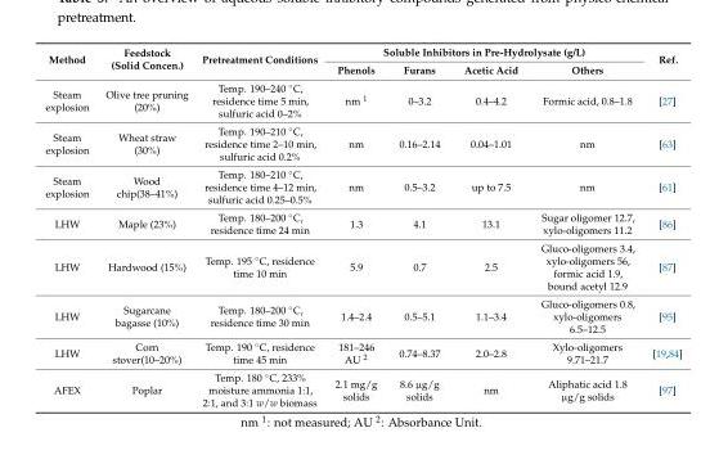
<table><thead><tr><td rowspan="2">Method</td><td rowspan="2">Feedstock (Solid Concen.)</td><td rowspan="2">Pretreatment Conditions</td><td colspan="4">Soluble Inhibitors in Pre-Hydrolysate (g/L)</td><td rowspan="2">Ref.</td></tr><tr><td>Phenols</td><td>Furans</td><td>Acetic Acid</td><td>Others</td></tr></thead><tbody><tr><td>Steam explosion</td><td>Olive tree pruning (20%)</td><td>Temp. 190–240 ◦C, residence time 5 min, sulfuric acid 0–2%</td><td>nm <sup>1</sup></td><td>0–3.2</td><td>0.4–4.2</td><td>Formic acid, 0.8–1.8</td><td>[27]</td></tr><tr><td>Steam explosion</td><td>Wheat straw (30%)</td><td>Temp. 190–210 ◦C, residence time 2–10 min, sulfuric acid 0.2%</td><td>nm</td><td>0.16–2.14</td><td>0.04–1.01</td><td>nm</td><td>[63]</td></tr><tr><td>Steam explosion</td><td>Wood chip(38–41%)</td><td>Temp. 180–210 ◦C, residence time 4–12 min, sulfuric acid 0.25–0.5%</td><td>nm</td><td>0.5–3.2</td><td>up to 7.5</td><td>nm</td><td>[61]</td></tr><tr><td>LHW</td><td>Maple (23%)</td><td>Temp. 180–200 ◦C, residence time 24 min</td><td>1.3</td><td>4.1</td><td>13.1</td><td>Sugar oligomer 12.7, xylo-oligomers 11.2</td><td>[86]</td></tr><tr><td>LHW</td><td>Hardwood (15%)</td><td>Temp. 195 ◦C, residence time 10 min</td><td>5.9</td><td>0.7</td><td>2.5</td><td>Gluco-oligomers 3.4, xylo-oligomers 56, formic acid 1.9, bound acetyl 12.9</td><td>[87]</td></tr><tr><td>LHW</td><td>Sugarcane bagasse (10%)</td><td>Temp. 180–200 ◦C, residence time 30 min</td><td>1.4–2.4</td><td>0.5–5.1</td><td>1.1–3.4</td><td>Gluco-oligomers 0.8, xylo-oligomers 6.5–12.5</td><td>[95]</td></tr><tr><td>LHW</td><td>Corn stover(10–20%)</td><td>Temp. 190 ◦C, residence time 45 min</td><td>181–246 AU <sup>2</sup></td><td>0.74–8.37</td><td>2.0–2.8</td><td>Xylo-oligomers 9.71–21.7</td><td>[19,84]</td></tr><tr><td>AFEX</td><td>Poplar</td><td>Temp. 180 ◦C, 233% moisture ammonia 1:1, 2:1, and 3:1 w/w biomass</td><td>2.1 mg/g solids</td><td>8.6 µg/g solids</td><td>nm</td><td>Aliphatic acid 1.8 µg/g solids</td><td>[97]</td></tr></tbody></table>